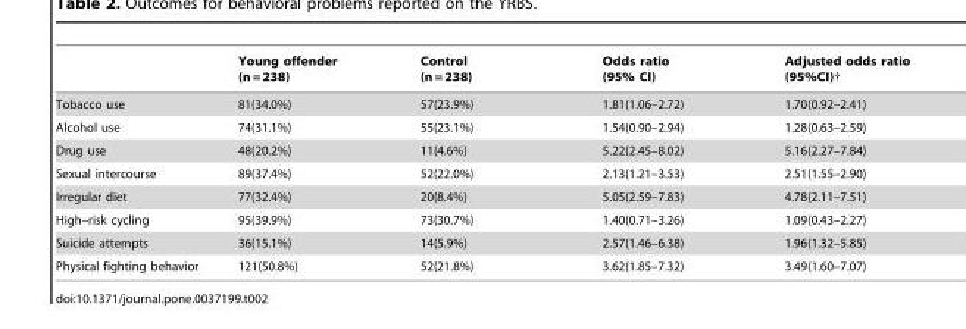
<table><thead><tr><td></td><td>Young offender (n = 238)</td><td>Control (n = 238)</td><td>Odds ratio (95% CI)</td><td>Adjusted odds ratio (95%CI)†</td></tr></thead><tbody><tr><td>Tobacco use</td><td>81(34.0%)</td><td>57(23.9%)</td><td>1.81(1.06–2.72)</td><td>1.70(0.92–2.41)</td></tr><tr><td>Alcohol use</td><td>74(31.1%)</td><td>55(23.1%)</td><td>1.54(0.90–2.94)</td><td>1.28(0.63–2.59)</td></tr><tr><td>Drug use</td><td>48(20.2%)</td><td>11(4.6%)</td><td>5.22(2.45–8.02)</td><td>5.16(2.27–7.84)</td></tr><tr><td>Sexual intercourse</td><td>89(37.4%)</td><td>52(22.0%)</td><td>2.13(1.21–3.53)</td><td>2.51(1.55–2.90)</td></tr><tr><td>Irregular diet</td><td>77(32.4%)</td><td>20(8.4%)</td><td>5.05(2.59–7.83)</td><td>4.78(2.11–7.51)</td></tr><tr><td>High–risk cycling</td><td>95(39.9%)</td><td>73(30.7%)</td><td>1.40(0.71–3.26)</td><td>1.09(0.43–2.27)</td></tr><tr><td>Suicide attempts</td><td>36(15.1%)</td><td>14(5.9%)</td><td>2.57(1.46–6.38)</td><td>1.96(1.32–5.85)</td></tr><tr><td>Physical fighting behavior</td><td>121(50.8%)</td><td>52(21.8%)</td><td>3.62(1.85–7.32)</td><td>3.49(1.60–7.07)</td></tr></tbody></table>